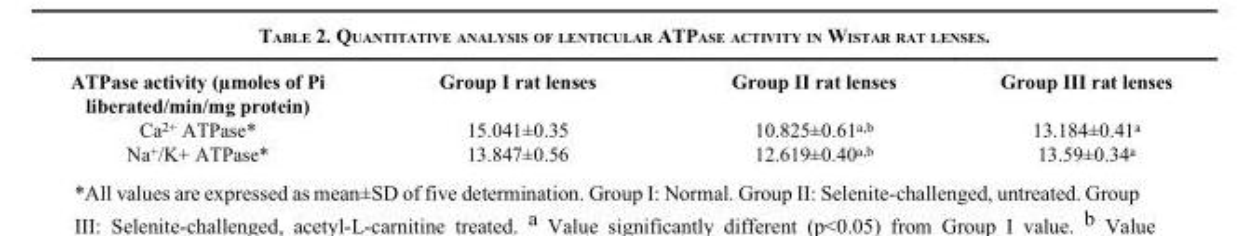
<table><thead><tr><td>ATPase activity (µmoles of Pi liberated/min/mg protein)</td><td>Group I rat lenses</td><td>Group II rat lenses</td><td>Group III rat lenses</td></tr></thead><tbody><tr><td>Ca<sup>2+</sup> ATPase*</td><td>15.041±0.35</td><td>10.825±0.61<sup>a,b</sup></td><td>13.184±0.41<sup>a</sup></td></tr><tr><td>Na<sup>+</sup>/K+ ATPase*</td><td>13.847±0.56</td><td>12.619±0.40<sup>a,b</sup></td><td>13.59±0.34<sup>a</sup></td></tr></tbody></table>